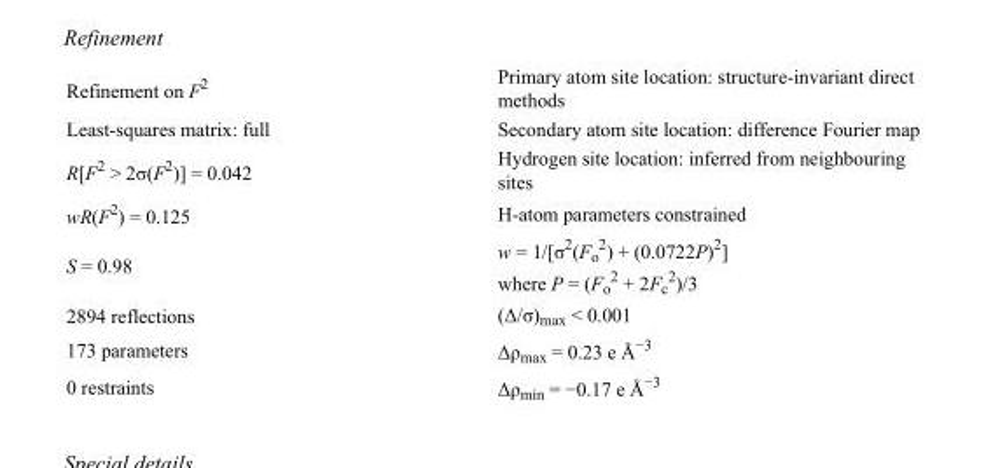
<table><tbody><tr><td>Refinement on F<sup>2</sup></td><td>Primary atom site location: structure-invariant direct methods</td></tr><tr><td>Least-squares matrix: full</td><td>Secondary atom site location: difference Fourier map</td></tr><tr><td>R[F<sup>2</sup> &gt; 2σ(F<sup>2</sup>)] = 0.042</td><td>Hydrogen site location: inferred from neighbouring sites</td></tr><tr><td>wR(F<sup>2</sup>) = 0.125</td><td>H-atom parameters constrained</td></tr><tr><td>S = 0.98</td><td>w = 1/[σ<sup>2</sup>(F<sub>o</sub> <sup>2</sup>) + (0.0722P)<sup>2</sup>] where P = (F<sub>o</sub> <sup>2</sup> + 2F<sub>c</sub> <sup>2</sup>)/3</td></tr><tr><td>2894 reflections</td><td>(Δ/σ)<sub>max</sub> &lt; 0.001</td></tr><tr><td>173 parameters</td><td>Δρ<sub>max</sub> = 0.23 e Å<sup>−3</sup></td></tr><tr><td>0 restraints</td><td>Δρ<sub>min</sub> = −0.17 e Å<sup>−3</sup></td></tr></tbody></table>